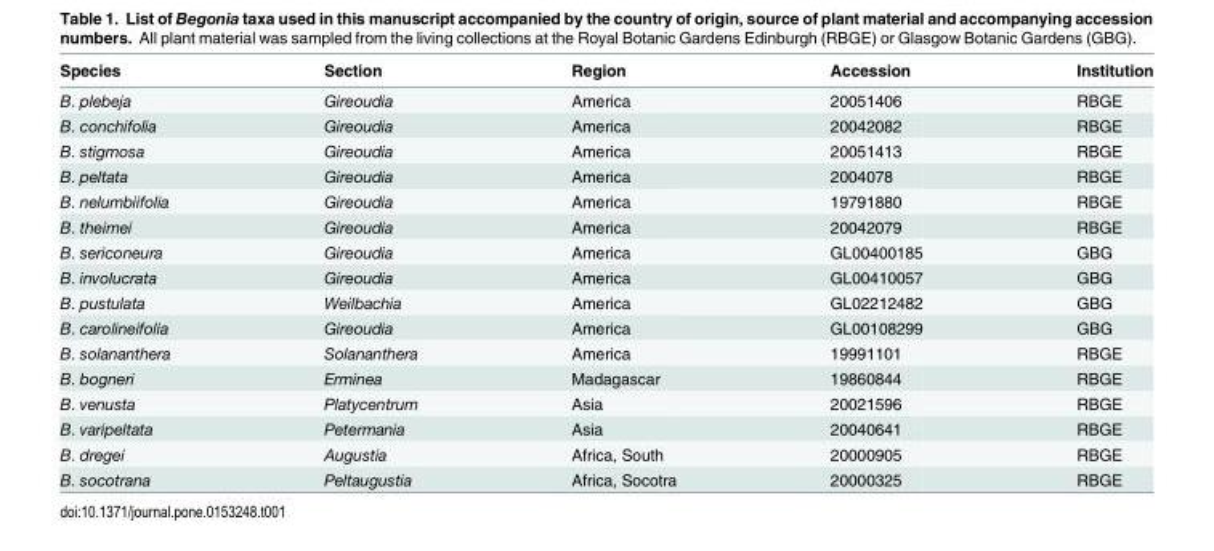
<table><thead><tr><td>Species</td><td>Section</td><td>Region</td><td>Accession</td><td>Institution</td></tr></thead><tbody><tr><td>B. plebeja</td><td>Gireoudia</td><td>America</td><td>20051406</td><td>RBGE</td></tr><tr><td>B. conchifolia</td><td>Gireoudia</td><td>America</td><td>20042082</td><td>RBGE</td></tr><tr><td>B. stigmosa</td><td>Gireoudia</td><td>America</td><td>20051413</td><td>RBGE</td></tr><tr><td>B. peltata</td><td>Gireoudia</td><td>America</td><td>2004078</td><td>RBGE</td></tr><tr><td>B. nelumbiifolia</td><td>Gireoudia</td><td>America</td><td>19791880</td><td>RBGE</td></tr><tr><td>B. theimei</td><td>Gireoudia</td><td>America</td><td>20042079</td><td>RBGE</td></tr><tr><td>B. sericoneura</td><td>Gireoudia</td><td>America</td><td>GL00400185</td><td>GBG</td></tr><tr><td>B. involucrata</td><td>Gireoudia</td><td>America</td><td>GL00410057</td><td>GBG</td></tr><tr><td>B. pustulata</td><td>Weilbachia</td><td>America</td><td>GL02212482</td><td>GBG</td></tr><tr><td>B. carolineifolia</td><td>Gireoudia</td><td>America</td><td>GL00108299</td><td>GBG</td></tr><tr><td>B. solananthera</td><td>Solananthera</td><td>America</td><td>19991101</td><td>RBGE</td></tr><tr><td>B. bogneri</td><td>Erminea</td><td>Madagascar</td><td>19860844</td><td>RBGE</td></tr><tr><td>B. venusta</td><td>Platycentrum</td><td>Asia</td><td>20021596</td><td>RBGE</td></tr><tr><td>B. varipeltata</td><td>Petermania</td><td>Asia</td><td>20040641</td><td>RBGE</td></tr><tr><td>B. dregei</td><td>Augustia</td><td>Africa, South</td><td>20000905</td><td>RBGE</td></tr><tr><td>B. socotrana</td><td>Peltaugustia</td><td>Africa, Socotra</td><td>20000325</td><td>RBGE</td></tr></tbody></table>